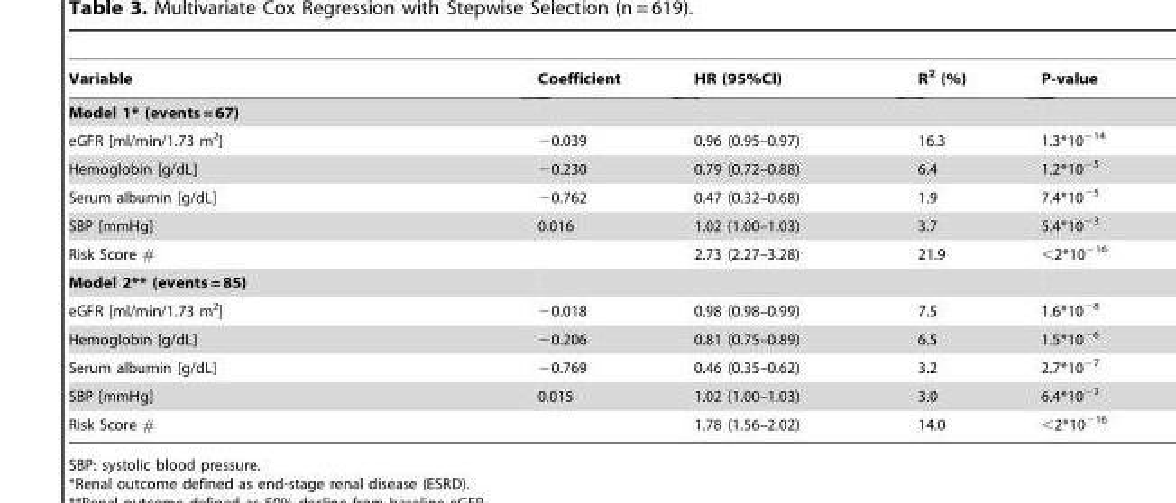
<table><thead><tr><td rowspan="2">Variable Model 1* (events = 67)</td><td rowspan="2">Coefficient</td><td rowspan="2">HR (95%CI)</td><td rowspan="2">R<sup>2</sup> (%)</td><td rowspan="2">P-value</td></tr><tr></tr></thead><tbody><tr><td>eGFR [ml/min/1.73 m<sup>2</sup>]</td><td>−0.039</td><td>0.96 (0.95–0.97)</td><td>16.3</td><td>1.3*10<sup>−14</sup></td></tr><tr><td>Hemoglobin [g/dL]</td><td>−0.230</td><td>0.79 (0.72–0.88)</td><td>6.4</td><td>1.2*10<sup>−5</sup></td></tr><tr><td>Serum albumin [g/dL]</td><td>−0.762</td><td>0.47 (0.32–0.68)</td><td>1.9</td><td>7.4*10<sup>−5</sup></td></tr><tr><td>SBP [mmHg]</td><td>0.016</td><td>1.02 (1.00–1.03)</td><td>3.7</td><td>5.4*10<sup>−3</sup></td></tr><tr><td>Risk Score #</td><td></td><td>2.73 (2.27–3.28)</td><td>21.9</td><td>&lt;2*10<sup>−16</sup></td></tr><tr><td colspan="5">Model 2** (events = 85)</td></tr><tr><td>eGFR [ml/min/1.73 m<sup>2</sup>]</td><td>−0.018</td><td>0.98 (0.98–0.99)</td><td>7.5</td><td>1.6*10<sup>−8</sup></td></tr><tr><td>Hemoglobin [g/dL]</td><td>−0.206</td><td>0.81 (0.75–0.89)</td><td>6.5</td><td>1.5*10<sup>−6</sup></td></tr><tr><td>Serum albumin [g/dL]</td><td>−0.769</td><td>0.46 (0.35–0.62)</td><td>3.2</td><td>2.7*10<sup>−7</sup></td></tr><tr><td>SBP [mmHg]</td><td>0.015</td><td>1.02 (1.00–1.03)</td><td>3.0</td><td>6.4*10<sup>−3</sup></td></tr><tr><td>Risk Score #</td><td></td><td>1.78 (1.56–2.02)</td><td>14.0</td><td>&lt;2*10<sup>−16</sup></td></tr></tbody></table>